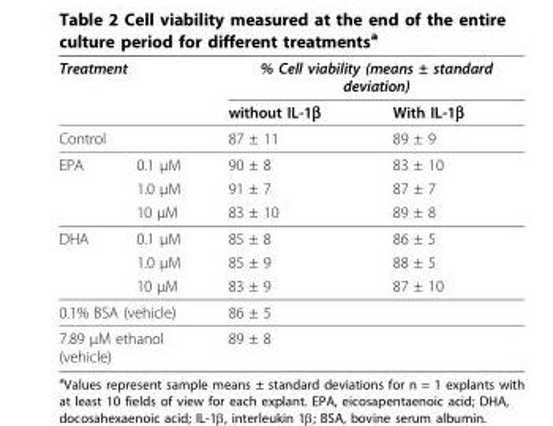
<table><thead><tr><td colspan="2">Treatment</td><td colspan="2">% Cell viability (means ± standard deviation)</td></tr><tr><td></td><td></td><td>without IL-1β</td><td>With IL-1β</td></tr></thead><tbody><tr><td colspan="2">Control</td><td>87 ± 11</td><td>89 ± 9</td></tr><tr><td rowspan="3">EPA</td><td>0.1 μM</td><td>90 ± 8</td><td>83 ± 10</td></tr><tr><td>1.0 μM</td><td>91 ± 7</td><td>87 ± 7</td></tr><tr><td>10 μM</td><td>83 ± 10</td><td>89 ± 8</td></tr><tr><td rowspan="3">DHA</td><td>0.1 μM</td><td>85 ± 8</td><td>86 ± 5</td></tr><tr><td>1.0 μM</td><td>85 ± 9</td><td>88 ± 5</td></tr><tr><td>10 μM</td><td>83 ± 9</td><td>87 ± 10</td></tr><tr><td colspan="2">0.1% BSA (vehicle)</td><td>86 ± 5</td><td></td></tr><tr><td colspan="2">7.89 μM ethanol (vehicle)</td><td>89 ± 8</td><td></td></tr></tbody></table>